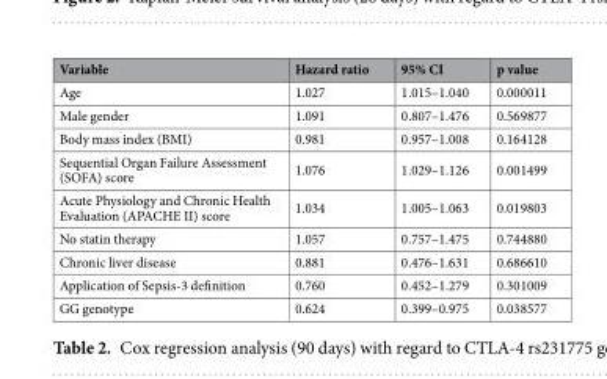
<table><thead><tr><td>Variable</td><td>Hazard ratio</td><td>95% CI</td><td>p value</td></tr></thead><tbody><tr><td>Age</td><td>1.027</td><td>1.015–1.040</td><td>0.000011</td></tr><tr><td>Male gender</td><td>1.091</td><td>0.807–1.476</td><td>0.569877</td></tr><tr><td>Body mass index (BMI)</td><td>0.981</td><td>0.957–1.008</td><td>0.164128</td></tr><tr><td>Sequential Organ Failure Assessment (SOFA) score</td><td>1.076</td><td>1.029–1.126</td><td>0.001499</td></tr><tr><td>Acute Physiology and Chronic Health Evaluation (APACHE II) score</td><td>1.034</td><td>1.005–1.063</td><td>0.019803</td></tr><tr><td>No statin therapy</td><td>1.057</td><td>0.757–1.475</td><td>0.744880</td></tr><tr><td>Chronic liver disease</td><td>0.881</td><td>0.476–1.631</td><td>0.686610</td></tr><tr><td>Application of Sepsis-3 definition</td><td>0.760</td><td>0.452–1.279</td><td>0.301009</td></tr><tr><td>GG genotype</td><td>0.624</td><td>0.399–0.975</td><td>0.038577</td></tr></tbody></table>